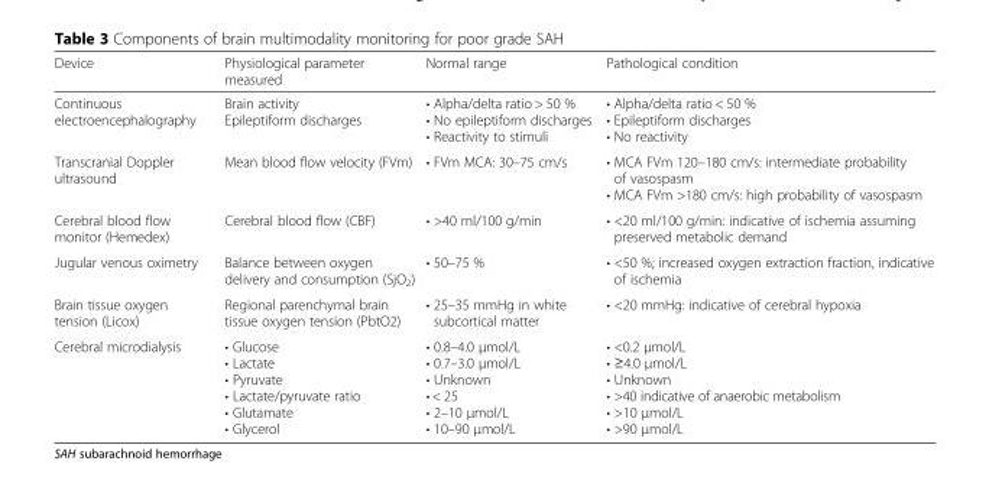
<table><thead><tr><td>Device</td><td>Physiological parameter measured</td><td>Normal range</td><td>Pathological condition</td></tr></thead><tbody><tr><td>Continuous electroencephalography</td><td>Brain activity Epileptiform discharges</td><td>• Alpha/delta ratio &gt; 50 % • No epileptiform discharges • Reactivity to stimuli</td><td>• Alpha/delta ratio &lt; 50 % • Epileptiform discharges • No reactivity</td></tr><tr><td>Transcranial Doppler ultrasound</td><td>Mean blood flow velocity (FVm)</td><td>• FVm MCA: 30–75 cm/s</td><td>• MCA FVm 120–180 cm/s: intermediate probability of vasospasm • MCA FVm &gt;180 cm/s: high probability of vasospasm</td></tr><tr><td>Cerebral blood flow monitor (Hemedex)</td><td>Cerebral blood flow (CBF)</td><td>• &gt;40 ml/100 g/min</td><td>• &lt;20 ml/100 g/min: indicative of ischemia assuming preserved metabolic demand</td></tr><tr><td>Jugular venous oximetry</td><td>Balance between oxygen delivery and consumption (SjO<sub>2</sub>)</td><td>• 50–75 %</td><td>• &lt;50 %; increased oxygen extraction fraction, indicative of ischemia</td></tr><tr><td>Brain tissue oxygen tension (Licox)</td><td>Regional parenchymal brain tissue oxygen tension (PbtO2)</td><td>• 25–35 mmHg in white subcortical matter</td><td>• &lt;20 mmHg: indicative of cerebral hypoxia</td></tr><tr><td>Cerebral microdialysis</td><td>• Glucose • Lactate • Pyruvate • Lactate/pyruvate ratio • Glutamate • Glycerol</td><td>• 0.8–4.0 μmol/L • 0.7–3.0 μmol/L • Unknown • &lt; 25 • 2–10 μmol/L • 10–90 μmol/L</td><td>• &lt;0.2 μmol/L • ≥4.0 μmol/L • Unknown • &gt;40 indicative of anaerobic metabolism • &gt;10 μmol/L • &gt;90 μmol/L</td></tr></tbody></table>